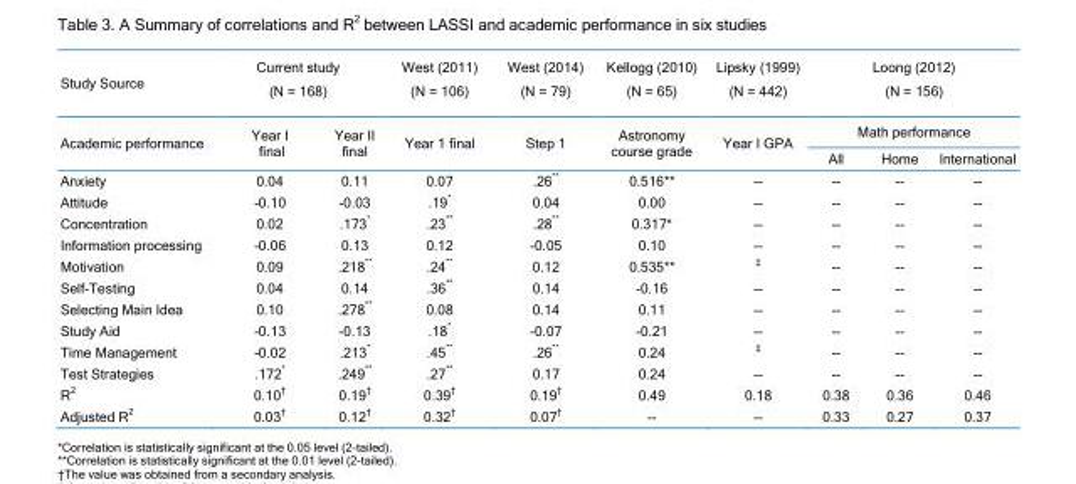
<table><thead><tr><td rowspan="3">Study Source Academic performance</td><td colspan="2">Current study (N = 168)</td><td rowspan="3">West (2011) (N = 106) Year 1 final</td><td rowspan="3">West (2014) (N = 79) Step 1</td><td rowspan="3">Kellogg (2010) (N = 65) Astronomy course grade</td><td rowspan="3">Lipsky (1999) (N = 442) Year I GPA</td><td rowspan="2" colspan="3">Loong (2012) (N = 156) Math performance</td></tr><tr><td rowspan="2">Year I final</td><td rowspan="2">Year II final</td></tr><tr><td>All</td><td>Home</td><td>International</td></tr></thead><tbody><tr><td>Anxiety</td><td>0.04</td><td>0.11</td><td>0.07</td><td>.26**</td><td>0.516**</td><td>--</td><td>--</td><td>--</td><td>--</td></tr><tr><td>Attitude</td><td>-0.10</td><td>-0.03</td><td>.19*</td><td>0.04</td><td>0.00</td><td>--</td><td>--</td><td>--</td><td>--</td></tr><tr><td>Concentration</td><td>0.02</td><td>.173*</td><td>.23**</td><td>.28**</td><td>0.317*</td><td>--</td><td>--</td><td>--</td><td>--</td></tr><tr><td>Information processing</td><td>-0.06</td><td>0.13</td><td>0.12</td><td>-0.05</td><td>0.10</td><td>--</td><td>--</td><td>--</td><td>--</td></tr><tr><td>Motivation</td><td>0.09</td><td>.218**</td><td>.24**</td><td>0.12</td><td>0.535**</td><td><sup>‡</sup></td><td>--</td><td>--</td><td>--</td></tr><tr><td>Self-Testing</td><td>0.04</td><td>0.14</td><td>.36**</td><td>0.14</td><td>-0.16</td><td>--</td><td>--</td><td>--</td><td>--</td></tr><tr><td>Selecting Main Idea</td><td>0.10</td><td>.278**</td><td>0.08</td><td>0.14</td><td>0.11</td><td>--</td><td>--</td><td>--</td><td>--</td></tr><tr><td>Study Aid</td><td>-0.13</td><td>-0.13</td><td>.18*</td><td>-0.07</td><td>-0.21</td><td>--</td><td>--</td><td>--</td><td>--</td></tr><tr><td>Time Management</td><td>-0.02</td><td>.213*</td><td>.45**</td><td>.26**</td><td>0.24</td><td><sup>‡</sup></td><td>--</td><td>--</td><td>--</td></tr><tr><td>Test Strategies</td><td>.172*</td><td>.249**</td><td>.27**</td><td>0.17</td><td>0.24</td><td>--</td><td>--</td><td>--</td><td>--</td></tr><tr><td>R<sup>2</sup></td><td>0.10<sup>†</sup></td><td>0.19<sup>†</sup></td><td>0.39<sup>†</sup></td><td>0.19<sup>†</sup></td><td>0.49</td><td>0.18</td><td>0.38</td><td>0.36</td><td>0.46</td></tr><tr><td>Adjusted R<sup>2</sup></td><td>0.03<sup>†</sup></td><td>0.12<sup>†</sup></td><td>0.32<sup>†</sup></td><td>0.07<sup>†</sup></td><td>--</td><td>--</td><td>0.33</td><td>0.27</td><td>0.37</td></tr></tbody></table>